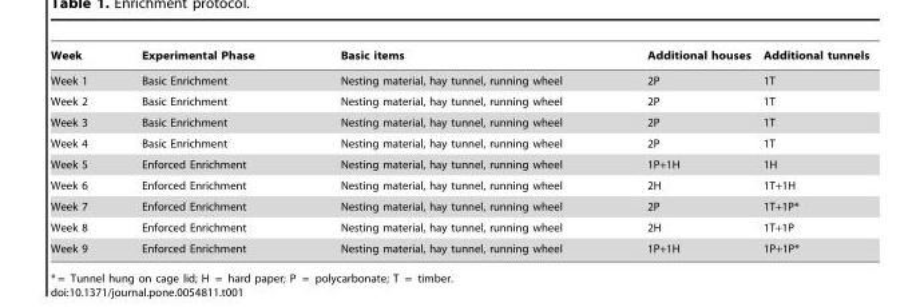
<table><thead><tr><td>Week</td><td>Experimental Phase</td><td>Basic items</td><td>Additional houses</td><td>Additional tunnels</td></tr></thead><tbody><tr><td>Week 1</td><td>Basic Enrichment</td><td>Nesting material, hay tunnel, running wheel</td><td>2P</td><td>1T</td></tr><tr><td>Week 2</td><td>Basic Enrichment</td><td>Nesting material, hay tunnel, running wheel</td><td>2P</td><td>1T</td></tr><tr><td>Week 3</td><td>Basic Enrichment</td><td>Nesting material, hay tunnel, running wheel</td><td>2P</td><td>1T</td></tr><tr><td>Week 4</td><td>Basic Enrichment</td><td>Nesting material, hay tunnel, running wheel</td><td>2P</td><td>1T</td></tr><tr><td>Week 5</td><td>Enforced Enrichment</td><td>Nesting material, hay tunnel, running wheel</td><td>1P+1H</td><td>1H</td></tr><tr><td>Week 6</td><td>Enforced Enrichment</td><td>Nesting material, hay tunnel, running wheel</td><td>2H</td><td>1T+1H</td></tr><tr><td>Week 7</td><td>Enforced Enrichment</td><td>Nesting material, hay tunnel, running wheel</td><td>2P</td><td>1T+1P*</td></tr><tr><td>Week 8</td><td>Enforced Enrichment</td><td>Nesting material, hay tunnel, running wheel</td><td>2H</td><td>1T+1P</td></tr><tr><td>Week 9</td><td>Enforced Enrichment</td><td>Nesting material, hay tunnel, running wheel</td><td>1P+1H</td><td>1P+1P*</td></tr></tbody></table>